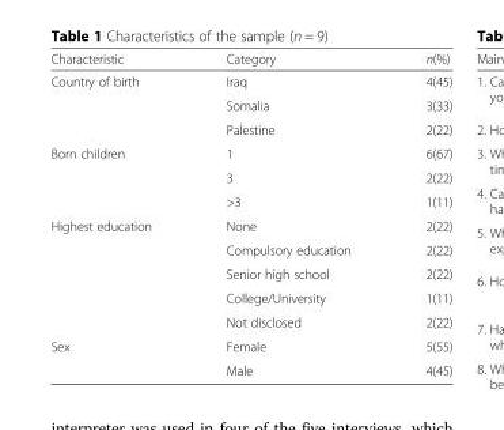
<table><thead><tr><td>Characteristic</td><td>Category</td><td>n(%)</td></tr></thead><tbody><tr><td rowspan="3">Country of birth</td><td>Iraq</td><td>4(45)</td></tr><tr><td>Somalia</td><td>3(33)</td></tr><tr><td>Palestine</td><td>2(22)</td></tr><tr><td rowspan="3">Born children</td><td>1</td><td>6(67)</td></tr><tr><td>3</td><td>2(22)</td></tr><tr><td>&gt;3</td><td>1(11)</td></tr><tr><td rowspan="5">Highest education</td><td>None</td><td>2(22)</td></tr><tr><td>Compulsory education</td><td>2(22)</td></tr><tr><td>Senior high school</td><td>2(22)</td></tr><tr><td>College/University</td><td>1(11)</td></tr><tr><td>Not disclosed</td><td>2(22)</td></tr><tr><td rowspan="2">Sex</td><td>Female</td><td>5(55)</td></tr><tr><td>Male</td><td>4(45)</td></tr></tbody></table>